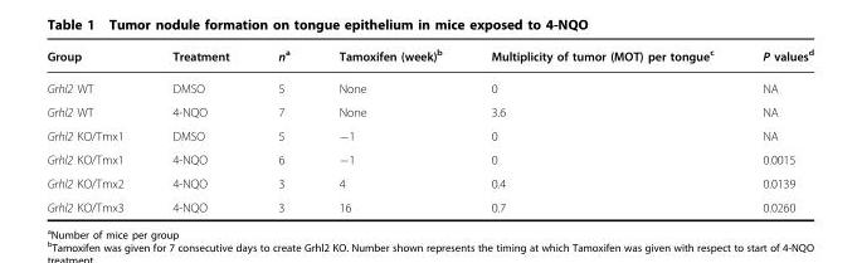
<table><thead><tr><td>Group</td><td>Treatment</td><td>n<sup>a</sup></td><td>Tamoxifen (week)<sup>b</sup></td><td>Multiplicity of tumor (MOT) per tongue<sup>c</sup></td><td>P values<sup>d</sup></td></tr></thead><tbody><tr><td>Grhl2 WT</td><td>DMSO</td><td>5</td><td>None</td><td>0</td><td>NA</td></tr><tr><td>Grhl2 WT</td><td>4-NQO</td><td>7</td><td>None</td><td>3.6</td><td>NA</td></tr><tr><td>Grhl2 KO/Tmx1</td><td>DMSO</td><td>5</td><td>−1</td><td>0</td><td>NA</td></tr><tr><td>Grhl2 KO/Tmx1</td><td>4-NQO</td><td>6</td><td>−1</td><td>0</td><td>0.0015</td></tr><tr><td>Grhl2 KO/Tmx2</td><td>4-NQO</td><td>3</td><td>4</td><td>0.4</td><td>0.0139</td></tr><tr><td>Grhl2 KO/Tmx3</td><td>4-NQO</td><td>3</td><td>16</td><td>0.7</td><td>0.0260</td></tr></tbody></table>